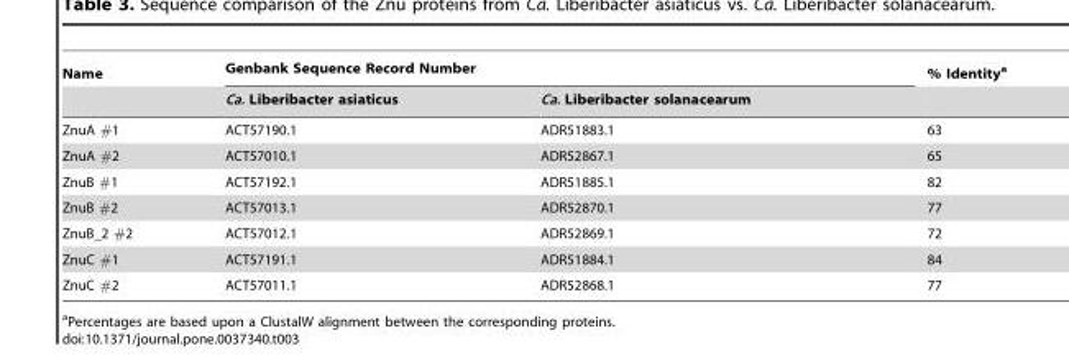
<table><thead><tr><td rowspan="2">Name</td><td colspan="2">Genbank Sequence Record Number</td><td rowspan="2">% Identity<sup>a</sup></td></tr><tr><td>Ca. Liberibacter asiaticus</td><td>Ca. Liberibacter solanacearum</td></tr></thead><tbody><tr><td>ZnuA #1</td><td>ACT57190.1</td><td>ADR51883.1</td><td>63</td></tr><tr><td>ZnuA #2</td><td>ACT57010.1</td><td>ADR52867.1</td><td>65</td></tr><tr><td>ZnuB #1</td><td>ACT57192.1</td><td>ADR51885.1</td><td>82</td></tr><tr><td>ZnuB #2</td><td>ACT57013.1</td><td>ADR52870.1</td><td>77</td></tr><tr><td>ZnuB_2 #2</td><td>ACT57012.1</td><td>ADR52869.1</td><td>72</td></tr><tr><td>ZnuC #1</td><td>ACT57191.1</td><td>ADR51884.1</td><td>84</td></tr><tr><td>ZnuC #2</td><td>ACT57011.1</td><td>ADR52868.1</td><td>77</td></tr></tbody></table>